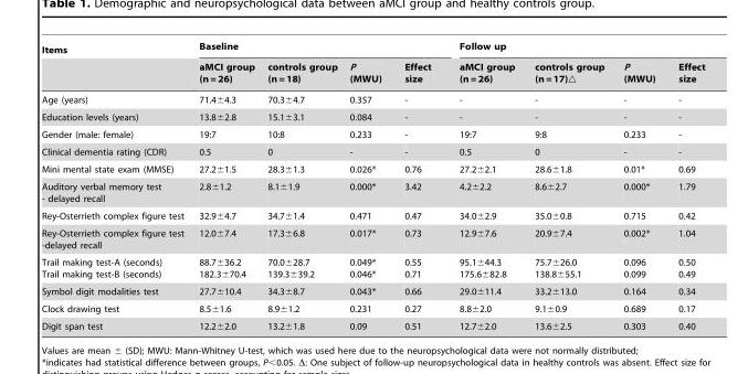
<table><thead><tr><td rowspan="2">Items</td><td colspan="4">Baseline</td><td colspan="4">Follow up</td></tr><tr><td>aMCI group (n = 26)</td><td>controls group (n = 18)</td><td>P (MWU)</td><td>Effect size</td><td>aMCI group (n = 26)</td><td>controls group (n = 17)△</td><td>P (MWU)</td><td>Effect size</td></tr></thead><tbody><tr><td>Age (years)</td><td>71.4±4.3</td><td>70.3±4.7</td><td>0.357</td><td>-</td><td>-</td><td>-</td><td>-</td><td>-</td></tr><tr><td>Education levels (years)</td><td>13.8±2.8</td><td>15.1±3.1</td><td>0.084</td><td>-</td><td>-</td><td>-</td><td>-</td><td>-</td></tr><tr><td>Gender (male: female)</td><td>19:7</td><td>10:8</td><td>0.233</td><td>-</td><td>19:7</td><td>9:8</td><td>0.233</td><td>-</td></tr><tr><td>Clinical dementia rating (CDR)</td><td>0.5</td><td>0</td><td>-</td><td>-</td><td>0.5</td><td>0</td><td>-</td><td>-</td></tr><tr><td>Mini mental state exam (MMSE)</td><td>27.2±1.5</td><td>28.3±1.3</td><td>0.026*</td><td>0.76</td><td>27.2±2.1</td><td>28.6±1.8</td><td>0.01*</td><td>0.69</td></tr><tr><td>Auditory verbal memory test - delayed recall</td><td>2.8±1.2</td><td>8.1±1.9</td><td>0.000*</td><td>3.42</td><td>4.2±2.2</td><td>8.6±2.7</td><td>0.000*</td><td>1.79</td></tr><tr><td>Rey-Osterrieth complex figure test</td><td>32.9±4.7</td><td>34.7±1.4</td><td>0.471</td><td>0.47</td><td>34.0±2.9</td><td>35.0±0.8</td><td>0.715</td><td>0.42</td></tr><tr><td>Rey-Osterrieth complex figure test -delayed recall</td><td>12.0±7.4</td><td>17.3±6.8</td><td>0.017*</td><td>0.73</td><td>12.9±7.6</td><td>20.9±7.4</td><td>0.002*</td><td>1.04</td></tr><tr><td>Trail making test-A (seconds) Trail making test-B (seconds)</td><td>88.7±36.2 182.3±70.4</td><td>70.0±28.7 139.3±39.2</td><td>0.049* 0.046*</td><td>0.55 0.71</td><td>95.1±44.3 175.6±82.8</td><td>75.7±26.0 138.8±55.1</td><td>0.096 0.099</td><td>0.50 0.49</td></tr><tr><td>Symbol digit modalities test</td><td>27.7±10.4</td><td>34.3±8.7</td><td>0.043*</td><td>0.66</td><td>29.0±11.4</td><td>33.2±13.0</td><td>0.164</td><td>0.34</td></tr><tr><td>Clock drawing test</td><td>8.5±1.6</td><td>8.9±1.2</td><td>0.231</td><td>0.27</td><td>8.8±2.0</td><td>9.1±0.9</td><td>0.689</td><td>0.17</td></tr><tr><td>Digit span test</td><td>12.2±2.0</td><td>13.2±1.8</td><td>0.09</td><td>0.51</td><td>12.7±2.0</td><td>13.6±2.5</td><td>0.303</td><td>0.40</td></tr></tbody></table>